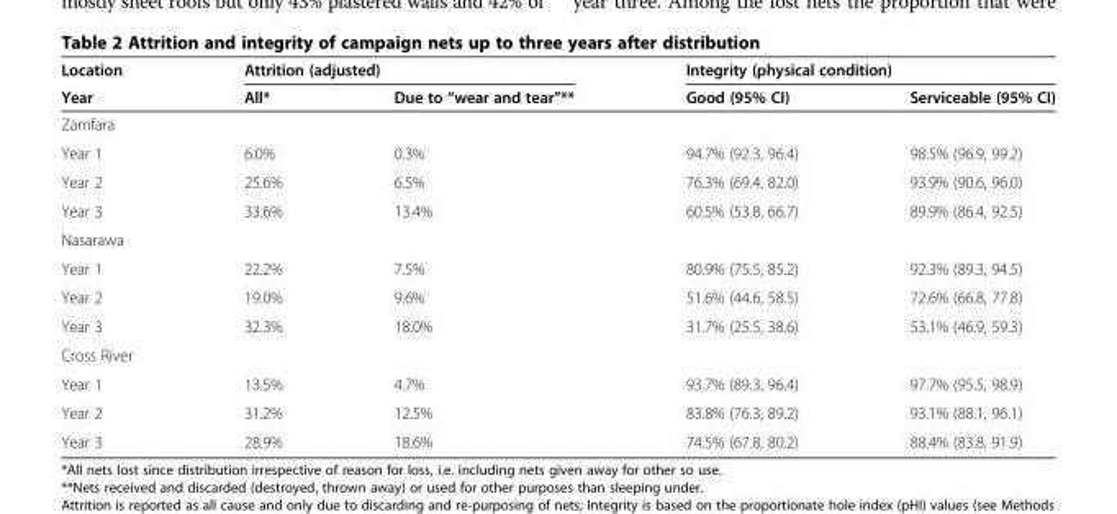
<table><thead><tr><td rowspan="2">Location Year</td><td colspan="2">Attrition (adjusted)</td><td colspan="2">Integrity (physical condition)</td></tr><tr><td>All*</td><td>Due to “wear and tear”**</td><td>Good (95% CI)</td><td>Serviceable (95% CI)</td></tr></thead><tbody><tr><td colspan="5">Zamfara</td></tr><tr><td>Year 1</td><td>6.0%</td><td>0.3%</td><td>94.7% (92.3, 96.4)</td><td>98.5% (96.9, 99.2)</td></tr><tr><td>Year 2</td><td>25.6%</td><td>6.5%</td><td>76.3% (69.4, 82.0)</td><td>93.9% (90.6, 96.0)</td></tr><tr><td>Year 3</td><td>33.6%</td><td>13.4%</td><td>60.5% (53.8, 66.7)</td><td>89.9% (86.4, 92.5)</td></tr><tr><td colspan="5">Nasarawa</td></tr><tr><td>Year 1</td><td>22.2%</td><td>7.5%</td><td>80.9% (75.5, 85.2)</td><td>92.3% (89.3, 94.5)</td></tr><tr><td>Year 2</td><td>19.0%</td><td>9.6%</td><td>51.6% (44.6, 58.5)</td><td>72.6% (66.8, 77.8)</td></tr><tr><td>Year 3</td><td>32.3%</td><td>18.0%</td><td>31.7% (25.5, 38.6)</td><td>53.1% (46.9, 59.3)</td></tr><tr><td colspan="5">Cross River</td></tr><tr><td>Year 1</td><td>13.5%</td><td>4.7%</td><td>93.7% (89.3, 96.4)</td><td>97.7% (95.5, 98.9)</td></tr><tr><td>Year 2</td><td>31.2%</td><td>12.5%</td><td>83.8% (76.3, 89.2)</td><td>93.1% (88.1, 96.1)</td></tr><tr><td>Year 3</td><td>28.9%</td><td>18.6%</td><td>74.5% (67.8, 80.2)</td><td>88.4% (83.8, 91.9)</td></tr></tbody></table>